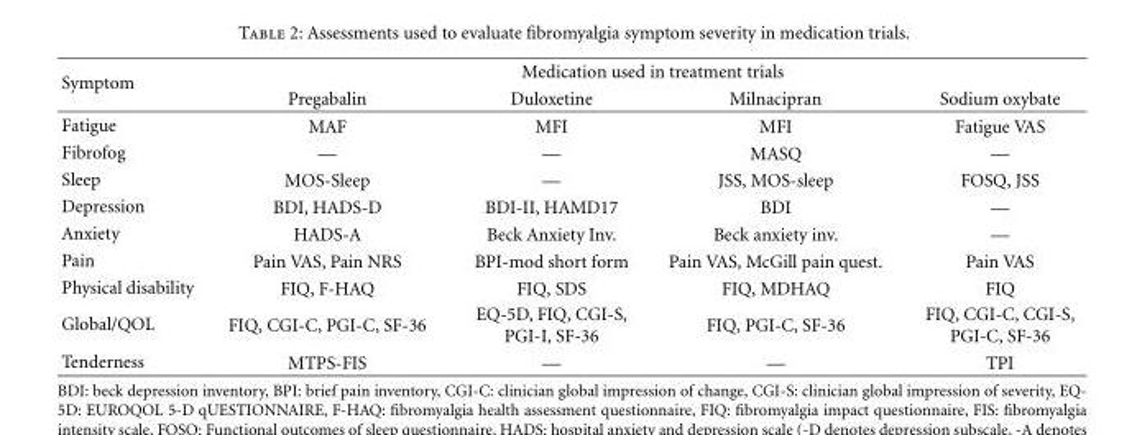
<table><thead><tr><td rowspan="2">Symptom</td><td colspan="4">Medication used in treatment trials</td></tr><tr><td>Pregabalin</td><td>Duloxetine</td><td>Milnacipran</td><td>Sodium oxybate</td></tr></thead><tbody><tr><td>Fatigue</td><td>MAF</td><td>MFI</td><td>MFI</td><td>Fatigue VAS</td></tr><tr><td>Fibrofog</td><td>—</td><td>—</td><td>MASQ</td><td>—</td></tr><tr><td>Sleep</td><td>MOS-Sleep</td><td>—</td><td>JSS, MOS-sleep</td><td>FOSQ, JSS</td></tr><tr><td>Depression</td><td>BDI, HADS-D</td><td>BDI-II, HAMD17</td><td>BDI</td><td>—</td></tr><tr><td>Anxiety</td><td>HADS-A</td><td>Beck Anxiety Inv.</td><td>Beck anxiety inv.</td><td>—</td></tr><tr><td>Pain</td><td>Pain VAS, Pain NRS</td><td>BPI-mod short form</td><td>Pain VAS, McGill pain quest.</td><td>Pain VAS</td></tr><tr><td>Physical disability</td><td>FIQ, F-HAQ</td><td>FIQ, SDS</td><td>FIQ, MDHAQ</td><td>FIQ</td></tr><tr><td>Global/QOL</td><td>FIQ, CGI-C, PGI-C, SF-36</td><td>EQ-5D, FIQ, CGI-S, PGI-I, SF-36</td><td>FIQ, PGI-C, SF-36</td><td>FIQ, CGI-C, CGI-S, PGI-C, SF-36</td></tr><tr><td>Tenderness</td><td>MTPS-FIS</td><td>—</td><td>—</td><td>TPI</td></tr></tbody></table>